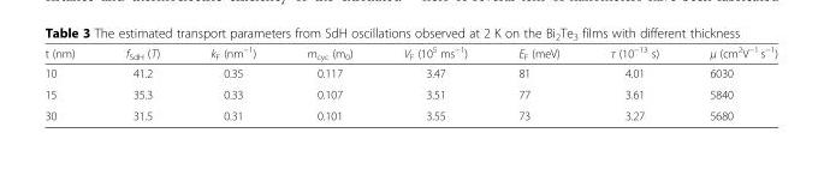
<table><thead><tr><td>t (nm)</td><td>f<sub>SdH</sub> (T)</td><td>k<sub>F</sub> (nm<sup>−1</sup>)</td><td>m<sub>cyc</sub> (m<sub>0</sub>)</td><td>V<sub>F</sub> (10<sup>5</sup> ms<sup>−1</sup>)</td><td>E<sub>F</sub> (meV)</td><td>τ (10<sup>−13</sup> s)</td><td>μ (cm<sup>2</sup>V<sup>−1</sup> s<sup>−1</sup>)</td></tr></thead><tbody><tr><td>10</td><td>41.2</td><td>0.35</td><td>0.117</td><td>3.47</td><td>81</td><td>4.01</td><td>6030</td></tr><tr><td>15</td><td>35.3</td><td>0.33</td><td>0.107</td><td>3.51</td><td>77</td><td>3.61</td><td>5840</td></tr><tr><td>30</td><td>31.5</td><td>0.31</td><td>0.101</td><td>3.55</td><td>73</td><td>3.27</td><td>5680</td></tr></tbody></table>